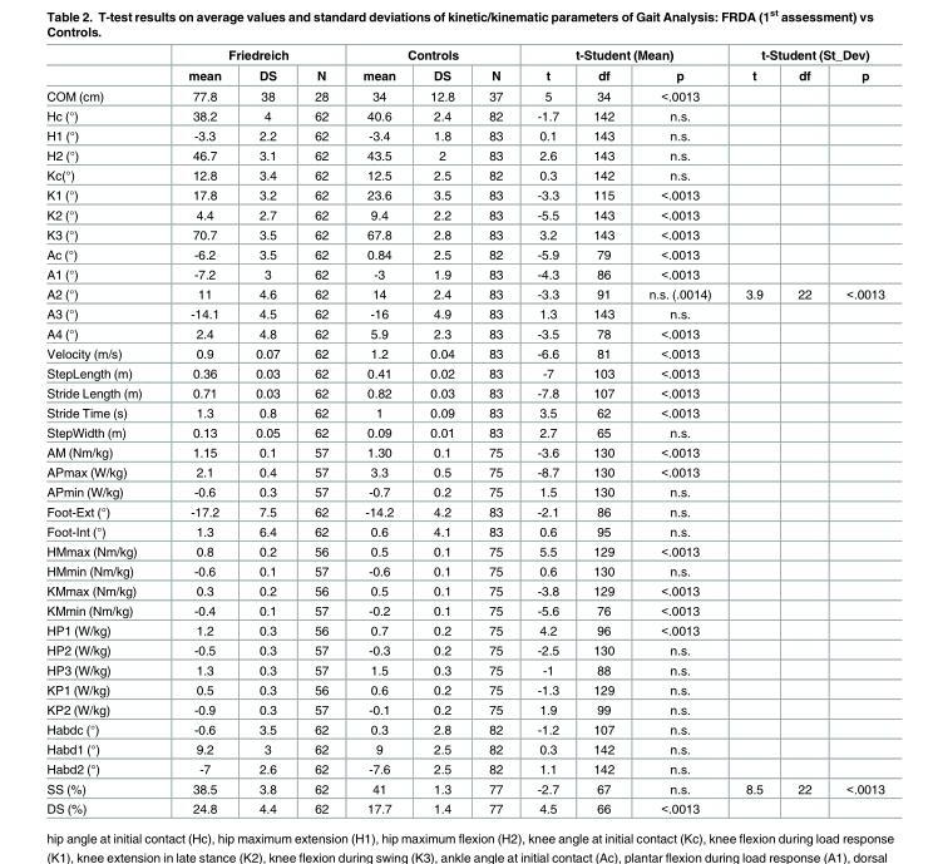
<table><thead><tr><td rowspan="2"></td><td colspan="3">Friedreich</td><td colspan="3">Controls</td><td colspan="3">t-Student (Mean)</td><td colspan="3">t-Student (St_Dev)</td></tr><tr><td>mean</td><td>DS</td><td>N</td><td>mean</td><td>DS</td><td>N</td><td>t</td><td>df</td><td>p</td><td>t</td><td>df</td><td>p</td></tr></thead><tbody><tr><td>COM (cm)</td><td>77.8</td><td>38</td><td>28</td><td>34</td><td>12.8</td><td>37</td><td>5</td><td>34</td><td>&lt;.0013</td><td></td><td></td><td></td></tr><tr><td>Hc (°)</td><td>38.2</td><td>4</td><td>62</td><td>40.6</td><td>2.4</td><td>82</td><td>-1.7</td><td>142</td><td>n.s.</td><td></td><td></td><td></td></tr><tr><td>H1 (°)</td><td>-3.3</td><td>2.2</td><td>62</td><td>-3.4</td><td>1.8</td><td>83</td><td>0.1</td><td>143</td><td>n.s.</td><td></td><td></td><td></td></tr><tr><td>H2 (°)</td><td>46.7</td><td>3.1</td><td>62</td><td>43.5</td><td>2</td><td>83</td><td>2.6</td><td>143</td><td>n.s.</td><td></td><td></td><td></td></tr><tr><td>Kc(°)</td><td>12.8</td><td>3.4</td><td>62</td><td>12.5</td><td>2.5</td><td>82</td><td>0.3</td><td>142</td><td>n.s.</td><td></td><td></td><td></td></tr><tr><td>K1 (°)</td><td>17.8</td><td>3.2</td><td>62</td><td>23.6</td><td>3.5</td><td>83</td><td>-3.3</td><td>115</td><td>&lt;.0013</td><td></td><td></td><td></td></tr><tr><td>K2 (°)</td><td>4.4</td><td>2.7</td><td>62</td><td>9.4</td><td>2.2</td><td>83</td><td>-5.5</td><td>143</td><td>&lt;.0013</td><td></td><td></td><td></td></tr><tr><td>K3 (°)</td><td>70.7</td><td>3.5</td><td>62</td><td>67.8</td><td>2.8</td><td>83</td><td>3.2</td><td>143</td><td>&lt;.0013</td><td></td><td></td><td></td></tr><tr><td>Ac (°)</td><td>-6.2</td><td>3.5</td><td>62</td><td>0.84</td><td>2.5</td><td>82</td><td>-5.9</td><td>79</td><td>&lt;.0013</td><td></td><td></td><td></td></tr><tr><td>A1 (°)</td><td>-7.2</td><td>3</td><td>62</td><td>-3</td><td>1.9</td><td>83</td><td>-4.3</td><td>86</td><td>&lt;.0013</td><td></td><td></td><td></td></tr><tr><td>A2 (°)</td><td>11</td><td>4.6</td><td>62</td><td>14</td><td>2.4</td><td>83</td><td>-3.3</td><td>91</td><td>n.s. (.0014)</td><td>3.9</td><td>22</td><td>&lt;.0013</td></tr><tr><td>A3 (°)</td><td>-14.1</td><td>4.5</td><td>62</td><td>-16</td><td>4.9</td><td>83</td><td>1.3</td><td>143</td><td>n.s.</td><td></td><td></td><td></td></tr><tr><td>A4 (°)</td><td>2.4</td><td>4.8</td><td>62</td><td>5.9</td><td>2.3</td><td>83</td><td>-3.5</td><td>78</td><td>&lt;.0013</td><td></td><td></td><td></td></tr><tr><td>Velocity (m/s)</td><td>0.9</td><td>0.07</td><td>62</td><td>1.2</td><td>0.04</td><td>83</td><td>-6.6</td><td>81</td><td>&lt;.0013</td><td></td><td></td><td></td></tr><tr><td>StepLength (m)</td><td>0.36</td><td>0.03</td><td>62</td><td>0.41</td><td>0.02</td><td>83</td><td>-7</td><td>103</td><td>&lt;.0013</td><td></td><td></td><td></td></tr><tr><td>Stride Length (m)</td><td>0.71</td><td>0.03</td><td>62</td><td>0.82</td><td>0.03</td><td>83</td><td>-7.8</td><td>107</td><td>&lt;.0013</td><td></td><td></td><td></td></tr><tr><td>Stride Time (s)</td><td>1.3</td><td>0.8</td><td>62</td><td>1</td><td>0.09</td><td>83</td><td>3.5</td><td>62</td><td>&lt;.0013</td><td></td><td></td><td></td></tr><tr><td>StepWidth (m)</td><td>0.13</td><td>0.05</td><td>62</td><td>0.09</td><td>0.01</td><td>83</td><td>2.7</td><td>65</td><td>n.s.</td><td></td><td></td><td></td></tr><tr><td>AM (Nm/kg)</td><td>1.15</td><td>0.1</td><td>57</td><td>1.30</td><td>0.1</td><td>75</td><td>-3.6</td><td>130</td><td>&lt;.0013</td><td></td><td></td><td></td></tr><tr><td>APmax (W/kg)</td><td>2.1</td><td>0.4</td><td>57</td><td>3.3</td><td>0.5</td><td>75</td><td>-8.7</td><td>130</td><td>&lt;.0013</td><td></td><td></td><td></td></tr><tr><td>APmin (W/kg)</td><td>-0.6</td><td>0.3</td><td>57</td><td>-0.7</td><td>0.2</td><td>75</td><td>1.5</td><td>130</td><td>n.s.</td><td></td><td></td><td></td></tr><tr><td>Foot-Ext (°)</td><td>-17.2</td><td>7.5</td><td>62</td><td>-14.2</td><td>4.2</td><td>83</td><td>-2.1</td><td>86</td><td>n.s.</td><td></td><td></td><td></td></tr><tr><td>Foot-Int (°)</td><td>1.3</td><td>6.4</td><td>62</td><td>0.6</td><td>4.1</td><td>83</td><td>0.6</td><td>95</td><td>n.s.</td><td></td><td></td><td></td></tr><tr><td>HMmax (Nm/kg)</td><td>0.8</td><td>0.2</td><td>56</td><td>0.5</td><td>0.1</td><td>75</td><td>5.5</td><td>129</td><td>&lt;.0013</td><td></td><td></td><td></td></tr><tr><td>HMmin (Nm/kg)</td><td>-0.6</td><td>0.1</td><td>57</td><td>-0.6</td><td>0.1</td><td>75</td><td>0.6</td><td>130</td><td>n.s.</td><td></td><td></td><td></td></tr><tr><td>KMmax (Nm/kg)</td><td>0.3</td><td>0.2</td><td>56</td><td>0.5</td><td>0.1</td><td>75</td><td>-3.8</td><td>129</td><td>&lt;.0013</td><td></td><td></td><td></td></tr><tr><td>KMmin (Nm/kg)</td><td>-0.4</td><td>0.1</td><td>57</td><td>-0.2</td><td>0.1</td><td>75</td><td>-5.6</td><td>76</td><td>&lt;.0013</td><td></td><td></td><td></td></tr><tr><td>HP1 (W/kg)</td><td>1.2</td><td>0.3</td><td>56</td><td>0.7</td><td>0.2</td><td>75</td><td>4.2</td><td>96</td><td>&lt;.0013</td><td></td><td></td><td></td></tr><tr><td>HP2 (W/kg)</td><td>-0.5</td><td>0.3</td><td>57</td><td>-0.3</td><td>0.2</td><td>75</td><td>-2.5</td><td>130</td><td>n.s.</td><td></td><td></td><td></td></tr><tr><td>HP3 (W/kg)</td><td>1.3</td><td>0.3</td><td>57</td><td>1.5</td><td>0.3</td><td>75</td><td>-1</td><td>88</td><td>n.s.</td><td></td><td></td><td></td></tr><tr><td>KP1 (W/kg)</td><td>0.5</td><td>0.3</td><td>56</td><td>0.6</td><td>0.2</td><td>75</td><td>-1.3</td><td>129</td><td>n.s.</td><td></td><td></td><td></td></tr><tr><td>KP2 (W/kg)</td><td>-0.9</td><td>0.3</td><td>57</td><td>-0.1</td><td>0.2</td><td>75</td><td>1.9</td><td>99</td><td>n.s.</td><td></td><td></td><td></td></tr><tr><td>Habdc (°)</td><td>-0.6</td><td>3.5</td><td>62</td><td>0.3</td><td>2.8</td><td>82</td><td>-1.2</td><td>107</td><td>n.s.</td><td></td><td></td><td></td></tr><tr><td>Habd1 (°)</td><td>9.2</td><td>3</td><td>62</td><td>9</td><td>2.5</td><td>82</td><td>0.3</td><td>142</td><td>n.s.</td><td></td><td></td><td></td></tr><tr><td>Habd2 (°)</td><td>-7</td><td>2.6</td><td>62</td><td>-7.6</td><td>2.5</td><td>82</td><td>1.1</td><td>142</td><td>n.s.</td><td></td><td></td><td></td></tr><tr><td>SS (%)</td><td>38.5</td><td>3.8</td><td>62</td><td>41</td><td>1.3</td><td>77</td><td>-2.7</td><td>67</td><td>n.s.</td><td>8.5</td><td>22</td><td>&lt;.0013</td></tr><tr><td>DS (%)</td><td>24.8</td><td>4.4</td><td>62</td><td>17.7</td><td>1.4</td><td>77</td><td>4.5</td><td>66</td><td>&lt;.0013</td><td></td><td></td><td></td></tr></tbody></table>